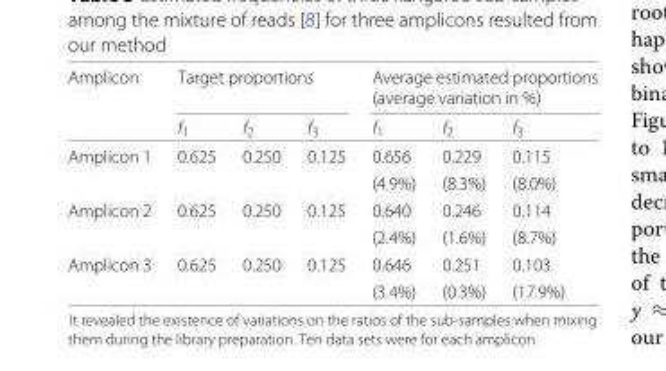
<table><thead><tr><td rowspan="2">Amplicon</td><td colspan="3">Target proportions</td><td colspan="3">Average estimated proportions (average variation in %)</td></tr><tr><td>f<sub>1</sub></td><td>f<sub>2</sub></td><td>f<sub>3</sub></td><td>f<sub>1</sub></td><td>f<sub>2</sub></td><td>f<sub>3</sub></td></tr></thead><tbody><tr><td rowspan="2">Amplicon 1</td><td>0.625</td><td>0.250</td><td>0.125</td><td>0.656</td><td>0.229</td><td>0.115</td></tr><tr><td></td><td></td><td></td><td>(4.9%)</td><td>(8.3%)</td><td>(8.0%)</td></tr><tr><td rowspan="2">Amplicon 2</td><td>0.625</td><td>0.250</td><td>0.125</td><td>0.640</td><td>0.246</td><td>0.114</td></tr><tr><td></td><td></td><td></td><td>(2.4%)</td><td>(1.6%)</td><td>(8.7%)</td></tr><tr><td rowspan="2">Amplicon 3</td><td>0.625</td><td>0.250</td><td>0.125</td><td>0.646</td><td>0.251</td><td>0.103</td></tr><tr><td></td><td></td><td></td><td>(3.4%)</td><td>(0.3%)</td><td>(17.9%)</td></tr></tbody></table>